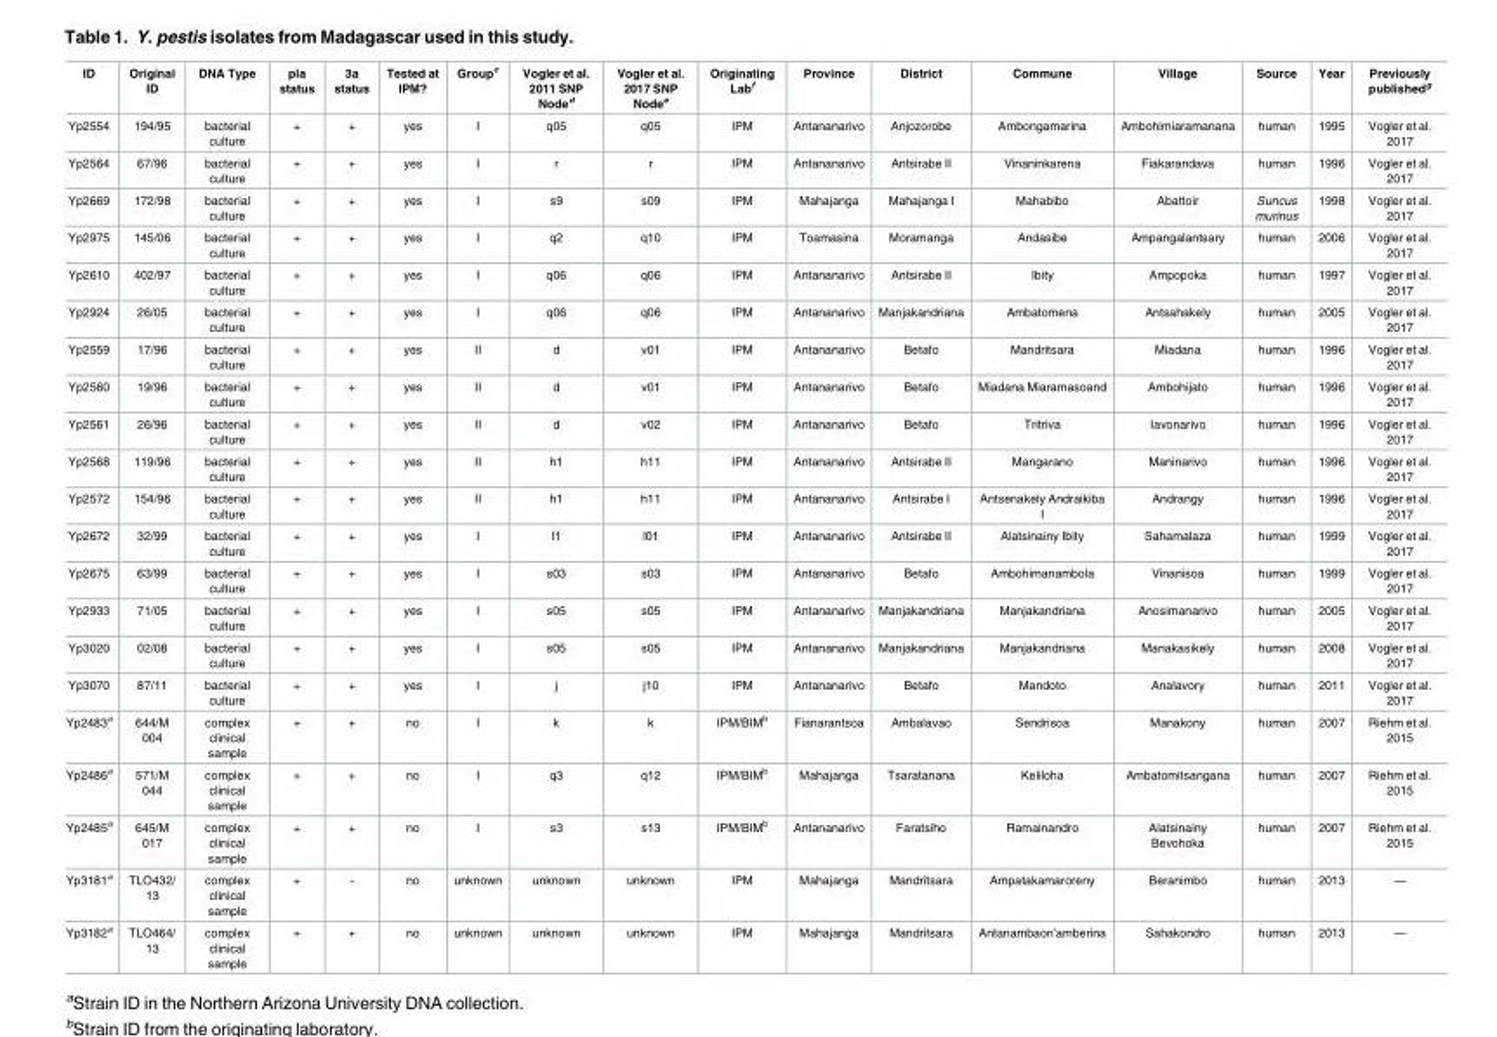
<table><thead><tr><td>ID</td><td>Original ID</td><td>DNA Type</td><td>pla status</td><td>3a status</td><td>Tested at IPM?</td><td>Group<sup>c</sup></td><td>Vogler et al. 2011 SNP Node<sup>d</sup></td><td>Vogler et al. 2017 SNP Node<sup>e</sup></td><td>Originating Lab<sup>f</sup></td><td>Province</td><td>District</td><td>Commune</td><td>Village</td><td>Source</td><td>Year</td><td>Previously published<sup>g</sup></td></tr></thead><tbody><tr><td>Yp2554</td><td>194/95</td><td>bacterial culture</td><td>+</td><td>+</td><td>yes</td><td>I</td><td>q05</td><td>q05</td><td>IPM</td><td>Antananarivo</td><td>Anjozorobe</td><td>Ambongamarina</td><td>Ambohimiaramanana</td><td>human</td><td>1995</td><td>Vogler et al. 2017</td></tr><tr><td>Yp2564</td><td>67/96</td><td>bacterial culture</td><td>+</td><td>+</td><td>yes</td><td>I</td><td>r</td><td>r</td><td>IPM</td><td>Antananarivo</td><td>Antsirabe II</td><td>Vinaninkarena</td><td>Fiakarandava</td><td>human</td><td>1996</td><td>Vogler et al. 2017</td></tr><tr><td>Yp2669</td><td>172/98</td><td>bacterial culture</td><td>+</td><td>+</td><td>yes</td><td>I</td><td>s9</td><td>s09</td><td>IPM</td><td>Mahajanga</td><td>Mahajanga I</td><td>Mahabibo</td><td>Abattoir</td><td>Suncus murinus</td><td>1998</td><td>Vogler et al. 2017</td></tr><tr><td>Yp2975</td><td>145/06</td><td>bacterial culture</td><td>+</td><td>+</td><td>yes</td><td>I</td><td>q2</td><td>q10</td><td>IPM</td><td>Toamasina</td><td>Moramanga</td><td>Andasibe</td><td>Ampangalantsary</td><td>human</td><td>2006</td><td>Vogler et al. 2017</td></tr><tr><td>Yp2610</td><td>402/97</td><td>bacterial culture</td><td>+</td><td>+</td><td>yes</td><td>I</td><td>q06</td><td>q06</td><td>IPM</td><td>Antananarivo</td><td>Antsirabe II</td><td>Ibity</td><td>Ampopoka</td><td>human</td><td>1997</td><td>Vogler et al. 2017</td></tr><tr><td>Yp2924</td><td>26/05</td><td>bacterial culture</td><td>+</td><td>+</td><td>yes</td><td>I</td><td>q06</td><td>q06</td><td>IPM</td><td>Antananarivo</td><td>Manjakandriana</td><td>Ambatomena</td><td>Antsahakely</td><td>human</td><td>2005</td><td>Vogler et al. 2017</td></tr><tr><td>Yp2559</td><td>17/96</td><td>bacterial culture</td><td>+</td><td>+</td><td>yes</td><td>II</td><td>d</td><td>v01</td><td>IPM</td><td>Antananarivo</td><td>Betafo</td><td>Mandritsara</td><td>Miadana</td><td>human</td><td>1996</td><td>Vogler et al. 2017</td></tr><tr><td>Yp2560</td><td>19/96</td><td>bacterial culture</td><td>+</td><td>+</td><td>yes</td><td>II</td><td>d</td><td>v01</td><td>IPM</td><td>Antananarivo</td><td>Betafo</td><td>Miadana Miaramasoand</td><td>Ambohijato</td><td>human</td><td>1996</td><td>Vogler et al. 2017</td></tr><tr><td>Yp2561</td><td>26/96</td><td>bacterial culture</td><td>+</td><td>+</td><td>yes</td><td>II</td><td>d</td><td>v02</td><td>IPM</td><td>Antananarivo</td><td>Betafo</td><td>Tritriva</td><td>Iavonarivo</td><td>human</td><td>1996</td><td>Vogler et al. 2017</td></tr><tr><td>Yp2568</td><td>119/96</td><td>bacterial culture</td><td>+</td><td>+</td><td>yes</td><td>II</td><td>h1</td><td>h11</td><td>IPM</td><td>Antananarivo</td><td>Antsirabe II</td><td>Mangarano</td><td>Maninarivo</td><td>human</td><td>1996</td><td>Vogler et al. 2017</td></tr><tr><td>Yp2572</td><td>154/96</td><td>bacterial culture</td><td>+</td><td>+</td><td>yes</td><td>II</td><td>h1</td><td>h11</td><td>IPM</td><td>Antananarivo</td><td>Antsirabe I</td><td>Antsenakely Andraikiba I</td><td>Andrangy</td><td>human</td><td>1996</td><td>Vogler et al. 2017</td></tr><tr><td>Yp2672</td><td>32/99</td><td>bacterial culture</td><td>+</td><td>+</td><td>yes</td><td>I</td><td>l1</td><td>l01</td><td>IPM</td><td>Antananarivo</td><td>Antsirabe II</td><td>Alatsinainy Ibity</td><td>Sahamalaza</td><td>human</td><td>1999</td><td>Vogler et al. 2017</td></tr><tr><td>Yp2675</td><td>63/99</td><td>bacterial culture</td><td>+</td><td>+</td><td>yes</td><td>I</td><td>s03</td><td>s03</td><td>IPM</td><td>Antananarivo</td><td>Betafo</td><td>Ambohimanambola</td><td>Vinanisoa</td><td>human</td><td>1999</td><td>Vogler et al. 2017</td></tr><tr><td>Yp2933</td><td>71/05</td><td>bacterial culture</td><td>+</td><td>+</td><td>yes</td><td>I</td><td>s05</td><td>s05</td><td>IPM</td><td>Antananarivo</td><td>Manjakandriana</td><td>Manjakandriana</td><td>Anosimanarivo</td><td>human</td><td>2005</td><td>Vogler et al. 2017</td></tr><tr><td>Yp3020</td><td>02/08</td><td>bacterial culture</td><td>+</td><td>+</td><td>yes</td><td>I</td><td>s05</td><td>s05</td><td>IPM</td><td>Antananarivo</td><td>Manjakandriana</td><td>Manjakandriana</td><td>Manakasikely</td><td>human</td><td>2008</td><td>Vogler et al. 2017</td></tr><tr><td>Yp3070</td><td>87/11</td><td>bacterial culture</td><td>+</td><td>+</td><td>yes</td><td>I</td><td>j</td><td>j10</td><td>IPM</td><td>Antananarivo</td><td>Betafo</td><td>Mandoto</td><td>Analavory</td><td>human</td><td>2011</td><td>Vogler et al. 2017</td></tr><tr><td>Yp2483<sup>a</sup></td><td>644/M 004</td><td>complex clinical sample</td><td>+</td><td>+</td><td>no</td><td>I</td><td>k</td><td>k</td><td>IPM/BIM<sup>b</sup></td><td>Fianarantsoa</td><td>Ambalavao</td><td>Sendrisoa</td><td>Manakony</td><td>human</td><td>2007</td><td>Riehm et al. 2015</td></tr><tr><td>Yp2486<sup>a</sup></td><td>571/M 044</td><td>complex clinical sample</td><td>+</td><td>+</td><td>no</td><td>I</td><td>q3</td><td>q12</td><td>IPM/BIM<sup>b</sup></td><td>Mahajanga</td><td>Tsaratanana</td><td>Keliloha</td><td>Ambatomitsangana</td><td>human</td><td>2007</td><td>Riehm et al. 2015</td></tr><tr><td>Yp2485<sup>a</sup></td><td>645/M 017</td><td>complex clinical sample</td><td>+</td><td>+</td><td>no</td><td>I</td><td>s3</td><td>s13</td><td>IPM/BIM<sup>b</sup></td><td>Antananarivo</td><td>Faratsiho</td><td>Ramainandro</td><td>Alatsinainy Bevohoka</td><td>human</td><td>2007</td><td>Riehm et al. 2015</td></tr><tr><td>Yp3181<sup>a</sup></td><td>TLO432/ 13</td><td>complex clinical sample</td><td>+</td><td>-</td><td>no</td><td>unknown</td><td>unknown</td><td>unknown</td><td>IPM</td><td>Mahajanga</td><td>Mandritsara</td><td>Ampatakamaroreny</td><td>Beranimbo</td><td>human</td><td>2013</td><td>—</td></tr><tr><td>Yp3182<sup>a</sup></td><td>TLO464/ 13</td><td>complex clinical sample</td><td>+</td><td>+</td><td>no</td><td>unknown</td><td>unknown</td><td>unknown</td><td>IPM</td><td>Mahajanga</td><td>Mandritsara</td><td>Antanambaon’amberina</td><td>Sahakondro</td><td>human</td><td>2013</td><td>—</td></tr></tbody></table>